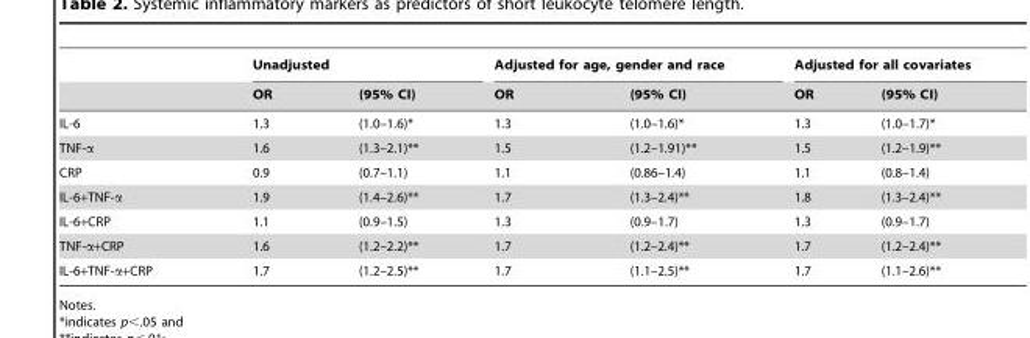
<table><thead><tr><td rowspan="2"></td><td colspan="2">Unadjusted</td><td colspan="2">Adjusted for age, gender and race</td><td colspan="2">Adjusted for all covariates</td></tr><tr><td>OR</td><td>(95% CI)</td><td>OR</td><td>(95% CI)</td><td>OR</td><td>(95% CI)</td></tr></thead><tbody><tr><td>IL-6</td><td>1.3</td><td>(1.0–1.6)*</td><td>1.3</td><td>(1.0–1.6)*</td><td>1.3</td><td>(1.0–1.7)*</td></tr><tr><td>TNF-α</td><td>1.6</td><td>(1.3–2.1)**</td><td>1.5</td><td>(1.2–1.91)**</td><td>1.5</td><td>(1.2–1.9)**</td></tr><tr><td>CRP</td><td>0.9</td><td>(0.7–1.1)</td><td>1.1</td><td>(0.86–1.4)</td><td>1.1</td><td>(0.8–1.4)</td></tr><tr><td>IL-6+TNF-α</td><td>1.9</td><td>(1.4–2.6)**</td><td>1.7</td><td>(1.3–2.4)**</td><td>1.8</td><td>(1.3–2.4)**</td></tr><tr><td>IL-6+CRP</td><td>1.1</td><td>(0.9–1.5)</td><td>1.3</td><td>(0.9–1.7)</td><td>1.3</td><td>(0.9–1.7)</td></tr><tr><td>TNF-α+CRP</td><td>1.6</td><td>(1.2–2.2)**</td><td>1.7</td><td>(1.2–2.4)**</td><td>1.7</td><td>(1.2–2.4)**</td></tr><tr><td>IL-6+TNF-α+CRP</td><td>1.7</td><td>(1.2–2.5)**</td><td>1.7</td><td>(1.1–2.5)**</td><td>1.7</td><td>(1.1–2.6)**</td></tr></tbody></table>